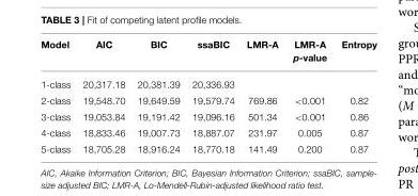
<table><thead><tr><td>Model</td><td>AIC</td><td>BIC</td><td>ssaBIC</td><td>LMR-A</td><td>LMR-A p-value</td><td>Entropy</td></tr></thead><tbody><tr><td>1-class</td><td>20,317.18</td><td>20,381.39</td><td>20,336.93</td><td></td><td></td><td></td></tr><tr><td>2-class</td><td>19,548.70</td><td>19,649.59</td><td>19,579.74</td><td>769.86</td><td>&lt;0.001</td><td>0.82</td></tr><tr><td>3-class</td><td>19,053.84</td><td>19,191.42</td><td>19,096.16</td><td>501.34</td><td>&lt;0.001</td><td>0.86</td></tr><tr><td>4-class</td><td>18,833.46</td><td>19,007.73</td><td>18,887.07</td><td>231.97</td><td>0.005</td><td>0.87</td></tr><tr><td>5-class</td><td>18,705.28</td><td>18,916.24</td><td>18,770.18</td><td>141.49</td><td>0.200</td><td>0.87</td></tr></tbody></table>